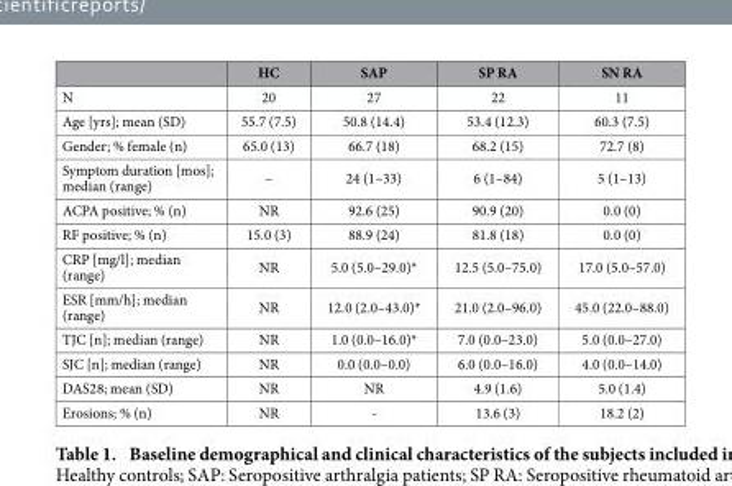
<table><thead><tr><td></td><td>HC</td><td>SAP</td><td>SP RA</td><td>SN RA</td></tr></thead><tbody><tr><td>N</td><td>20</td><td>27</td><td>22</td><td>11</td></tr><tr><td>Age [yrs]; mean (SD)</td><td>55.7 (7.5)</td><td>50.8 (14.4)</td><td>53.4 (12.3)</td><td>60.3 (7.5)</td></tr><tr><td>Gender; % female (n)</td><td>65.0 (13)</td><td>66.7 (18)</td><td>68.2 (15)</td><td>72.7 (8)</td></tr><tr><td>Symptom duration [mos]; median (range)</td><td>–</td><td>24 (1–33)</td><td>6 (1–84)</td><td>5 (1–13)</td></tr><tr><td>ACPA positive; % (n)</td><td>NR</td><td>92.6 (25)</td><td>90.9 (20)</td><td>0.0 (0)</td></tr><tr><td>RF positive; % (n)</td><td>15.0 (3)</td><td>88.9 (24)</td><td>81.8 (18)</td><td>0.0 (0)</td></tr><tr><td>CRP [mg/l]; median (range)</td><td>NR</td><td>5.0 (5.0–29.0)*</td><td>12.5 (5.0–75.0)</td><td>17.0 (5.0–57.0)</td></tr><tr><td>ESR [mm/h]; median (range)</td><td>NR</td><td>12.0 (2.0–43.0)*</td><td>21.0 (2.0–96.0)</td><td>45.0 (22.0–88.0)</td></tr><tr><td>TJC [n]; median (range)</td><td>NR</td><td>1.0 (0.0–16.0)*</td><td>7.0 (0.0–23.0)</td><td>5.0 (0.0–27.0)</td></tr><tr><td>SJC [n]; median (range)</td><td>NR</td><td>0.0 (0.0–0.0)</td><td>6.0 (0.0–16.0)</td><td>4.0 (0.0–14.0)</td></tr><tr><td>DAS28; mean (SD)</td><td>NR</td><td>NR</td><td>4.9 (1.6)</td><td>5.0 (1.4)</td></tr><tr><td>Erosions; % (n)</td><td>NR</td><td>-</td><td>13.6 (3)</td><td>18.2 (2)</td></tr></tbody></table>